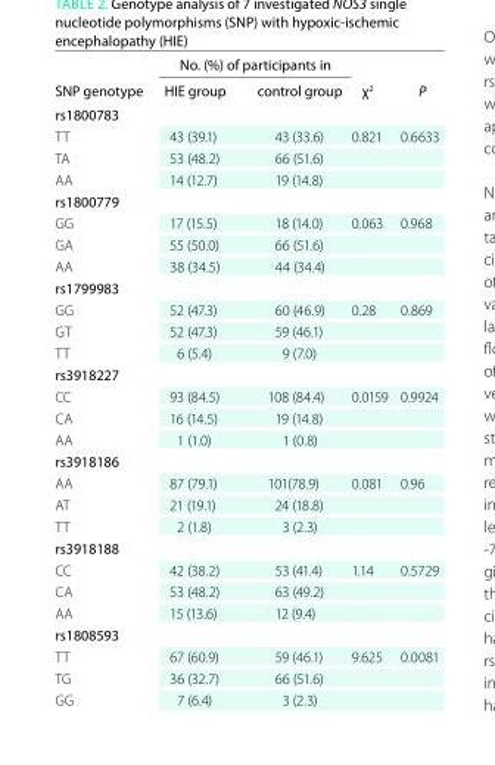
<table><thead><tr><td rowspan="2">SnP genotype</td><td colspan="2">no. (%) of participants in</td><td rowspan="2">χ<sup>2</sup></td><td rowspan="2">P</td></tr><tr><td>hiE group</td><td>control group</td></tr></thead><tbody><tr><td colspan="5">rs1800783</td></tr><tr><td>TT</td><td>43 (39.1)</td><td>43 (33.6)</td><td>0.821</td><td>0.6633</td></tr><tr><td>TA</td><td>53 (48.2)</td><td>66 (51.6)</td><td></td><td></td></tr><tr><td>AA</td><td>14 (12.7)</td><td>19 (14.8)</td><td></td><td></td></tr><tr><td colspan="5">rs1800779</td></tr><tr><td>GG</td><td>17 (15.5)</td><td>18 (14.0)</td><td>0.063</td><td>0.968</td></tr><tr><td>GA</td><td>55 (50.0)</td><td>66 (51.6)</td><td></td><td></td></tr><tr><td>AA</td><td>38 (34.5)</td><td>44 (34.4)</td><td></td><td></td></tr><tr><td colspan="5">rs1799983</td></tr><tr><td>GG</td><td>52 (47.3)</td><td>60 (46.9)</td><td>0.28</td><td>0.869</td></tr><tr><td>GT</td><td>52 (47.3)</td><td>59 (46.1)</td><td></td><td></td></tr><tr><td>TT</td><td>6 (5.4)</td><td>9 (7.0)</td><td></td><td></td></tr><tr><td colspan="5">rs3918227</td></tr><tr><td>CC</td><td>93 (84.5)</td><td>108 (84.4)</td><td>0.0159</td><td>0.9924</td></tr><tr><td>CA</td><td>16 (14.5)</td><td>19 (14.8)</td><td></td><td></td></tr><tr><td>AA</td><td>1 (1.0)</td><td>1 (0.8)</td><td></td><td></td></tr><tr><td colspan="5">rs3918186</td></tr><tr><td>AA</td><td>87 (79.1)</td><td>101(78.9)</td><td>0.081</td><td>0.96</td></tr><tr><td>AT</td><td>21 (19.1)</td><td>24 (18.8)</td><td></td><td></td></tr><tr><td>TT</td><td>2 (1.8)</td><td>3 (2.3)</td><td></td><td></td></tr><tr><td colspan="5">rs3918188</td></tr><tr><td>CC</td><td>42 (38.2)</td><td>53 (41.4)</td><td>1.14</td><td>0.5729</td></tr><tr><td>CA</td><td>53 (48.2)</td><td>63 (49.2)</td><td></td><td></td></tr><tr><td>AA</td><td>15 (13.6)</td><td>12 (9.4)</td><td></td><td></td></tr><tr><td colspan="5">rs1808593</td></tr><tr><td>TT</td><td>67 (60.9)</td><td>59 (46.1)</td><td>9.625</td><td>0.0081</td></tr><tr><td>TG</td><td>36 (32.7)</td><td>66 (51.6)</td><td></td><td></td></tr><tr><td>GG</td><td>7 (6.4)</td><td>3 (2.3)</td><td></td><td></td></tr></tbody></table>